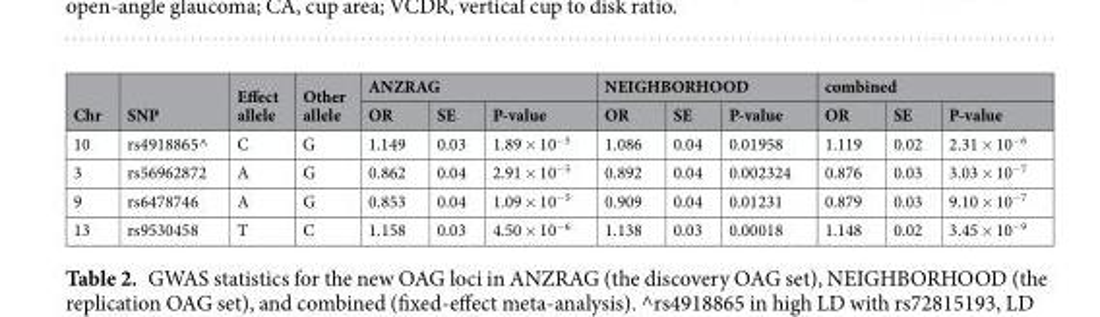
<table><thead><tr><td rowspan="2">Chr</td><td rowspan="2">SNP</td><td rowspan="2">Effect allele</td><td rowspan="2">Other allele</td><td colspan="3">ANZRAG</td><td colspan="3">NEIGHBORHOOD</td><td colspan="3">combined</td></tr><tr><td>OR</td><td>SE</td><td>P-value</td><td>OR</td><td>SE</td><td>P-value</td><td>OR</td><td>SE</td><td>P-value</td></tr></thead><tbody><tr><td>10</td><td>rs4918865^</td><td>C</td><td>G</td><td>1.149</td><td>0.03</td><td>1.89 × 10<sup>−5</sup></td><td>1.086</td><td>0.04</td><td>0.01958</td><td>1.119</td><td>0.02</td><td>2.31 × 10<sup>−6</sup></td></tr><tr><td>3</td><td>rs56962872</td><td>A</td><td>G</td><td>0.862</td><td>0.04</td><td>2.91 × 10<sup>−5</sup></td><td>0.892</td><td>0.04</td><td>0.002324</td><td>0.876</td><td>0.03</td><td>3.03 × 10<sup>−7</sup></td></tr><tr><td>9</td><td>rs6478746</td><td>A</td><td>G</td><td>0.853</td><td>0.04</td><td>1.09 × 10<sup>−5</sup></td><td>0.909</td><td>0.04</td><td>0.01231</td><td>0.879</td><td>0.03</td><td>9.10 × 10<sup>−7</sup></td></tr><tr><td>13</td><td>rs9530458</td><td>T</td><td>C</td><td>1.158</td><td>0.03</td><td>4.50 × 10<sup>−6</sup></td><td>1.138</td><td>0.03</td><td>0.00018</td><td>1.148</td><td>0.02</td><td>3.45 × 10<sup>−9</sup></td></tr></tbody></table>